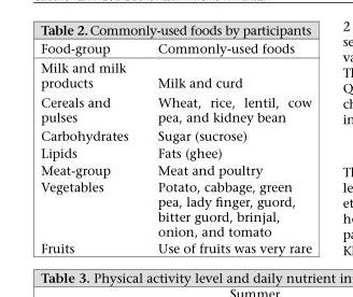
<table><thead><tr><td>Food-group</td><td>Commonly-used foods</td></tr></thead><tbody><tr><td>Milk and milk products</td><td>Milk and curd</td></tr><tr><td>Cereals and pulses</td><td>Wheat, rice, lentil, cow pea, and kidney bean</td></tr><tr><td>Carbohydrates</td><td>Sugar (sucrose)</td></tr><tr><td>Lipids</td><td>Fats (ghee)</td></tr><tr><td>Meat-group</td><td>Meat and poultry</td></tr><tr><td>Vegetables</td><td>Potato, cabbage, green pea, lady finger, guord, bitter guord, brinjal, onion, and tomato</td></tr><tr><td>Fruits</td><td>Use of fruits was very rare</td></tr></tbody></table>